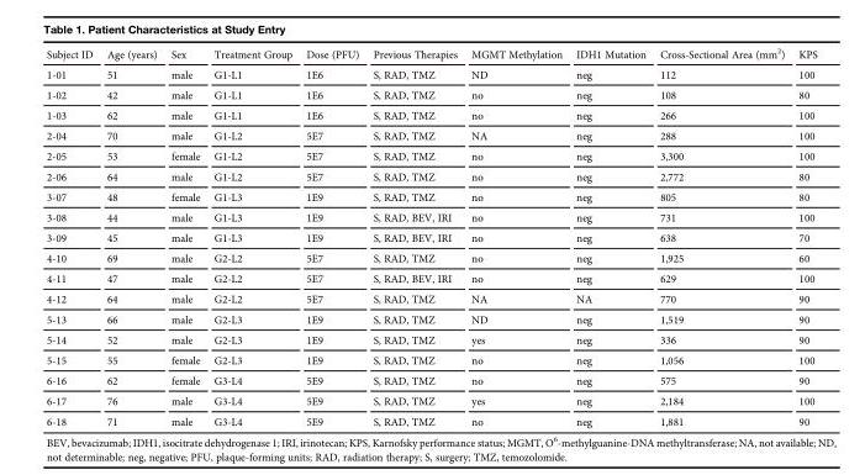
<table><thead><tr><td>Subject ID</td><td>Age (years)</td><td>Sex</td><td>Treatment Group</td><td>Dose (PFU)</td><td>Previous Therapies</td><td>MGMT Methylation</td><td>IDH1 Mutation</td><td>Cross-Sectional Area (mm<sup>2</sup>)</td><td>KPS</td></tr></thead><tbody><tr><td>1-01</td><td>51</td><td>male</td><td>G1-L1</td><td>1E6</td><td>S, RAD, TMZ</td><td>ND</td><td>neg</td><td>112</td><td>100</td></tr><tr><td>1-02</td><td>42</td><td>male</td><td>G1-L1</td><td>1E6</td><td>S, RAD, TMZ</td><td>no</td><td>neg</td><td>108</td><td>80</td></tr><tr><td>1-03</td><td>62</td><td>male</td><td>G1-L1</td><td>1E6</td><td>S, RAD, TMZ</td><td>no</td><td>neg</td><td>266</td><td>100</td></tr><tr><td>2-04</td><td>70</td><td>male</td><td>G1-L2</td><td>5E7</td><td>S, RAD, TMZ</td><td>NA</td><td>neg</td><td>288</td><td>100</td></tr><tr><td>2-05</td><td>53</td><td>female</td><td>G1-L2</td><td>5E7</td><td>S, RAD, TMZ</td><td>no</td><td>neg</td><td>3,300</td><td>100</td></tr><tr><td>2-06</td><td>64</td><td>male</td><td>G1-L2</td><td>5E7</td><td>S, RAD, TMZ</td><td>no</td><td>neg</td><td>2,772</td><td>80</td></tr><tr><td>3-07</td><td>48</td><td>female</td><td>G1-L3</td><td>1E9</td><td>S, RAD, TMZ</td><td>no</td><td>neg</td><td>805</td><td>80</td></tr><tr><td>3-08</td><td>44</td><td>male</td><td>G1-L3</td><td>1E9</td><td>S, RAD, BEV, IRI</td><td>no</td><td>neg</td><td>731</td><td>100</td></tr><tr><td>3-09</td><td>45</td><td>male</td><td>G1-L3</td><td>1E9</td><td>S, RAD, BEV, IRI</td><td>no</td><td>neg</td><td>638</td><td>70</td></tr><tr><td>4-10</td><td>69</td><td>male</td><td>G2-L2</td><td>5E7</td><td>S, RAD, TMZ</td><td>no</td><td>neg</td><td>1,925</td><td>60</td></tr><tr><td>4-11</td><td>47</td><td>male</td><td>G2-L2</td><td>5E7</td><td>S, RAD, BEV, IRI</td><td>no</td><td>neg</td><td>629</td><td>100</td></tr><tr><td>4-12</td><td>64</td><td>male</td><td>G2-L2</td><td>5E7</td><td>S, RAD, TMZ</td><td>NA</td><td>NA</td><td>770</td><td>90</td></tr><tr><td>5-13</td><td>66</td><td>male</td><td>G2-L3</td><td>1E9</td><td>S, RAD, TMZ</td><td>ND</td><td>neg</td><td>1,519</td><td>90</td></tr><tr><td>5-14</td><td>52</td><td>male</td><td>G2-L3</td><td>1E9</td><td>S, RAD, TMZ</td><td>yes</td><td>neg</td><td>336</td><td>90</td></tr><tr><td>5-15</td><td>55</td><td>female</td><td>G2-L3</td><td>1E9</td><td>S, RAD, TMZ</td><td>no</td><td>neg</td><td>1,056</td><td>100</td></tr><tr><td>6-16</td><td>62</td><td>female</td><td>G3-L4</td><td>5E9</td><td>S, RAD, TMZ</td><td>no</td><td>neg</td><td>575</td><td>90</td></tr><tr><td>6-17</td><td>76</td><td>male</td><td>G3-L4</td><td>5E9</td><td>S, RAD, TMZ</td><td>yes</td><td>neg</td><td>2,184</td><td>100</td></tr><tr><td>6-18</td><td>71</td><td>male</td><td>G3-L4</td><td>5E9</td><td>S, RAD, TMZ</td><td>no</td><td>neg</td><td>1,881</td><td>90</td></tr></tbody></table>